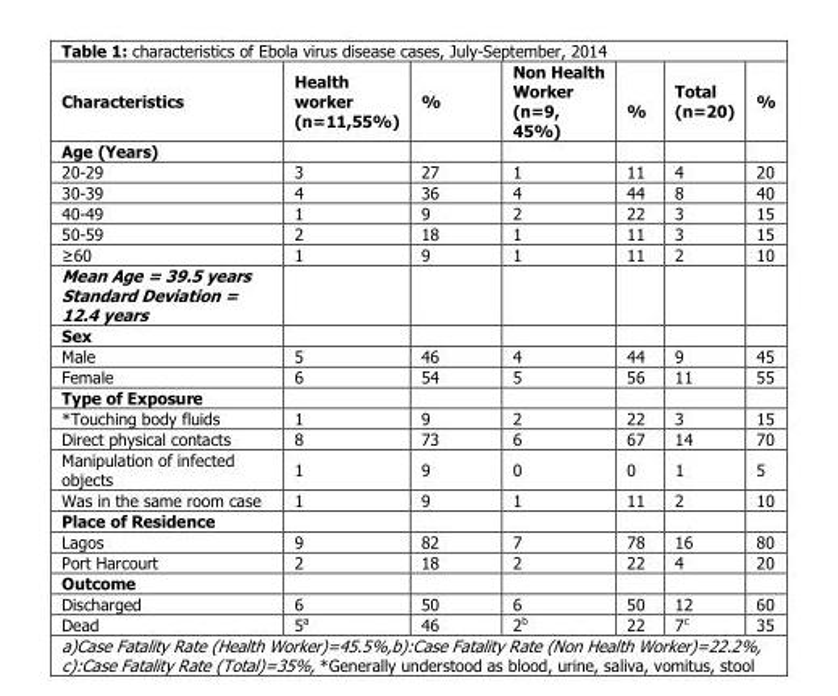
<table><thead><tr><td>Characteristics</td><td>Health worker (n=11,55%)</td><td>%</td><td>Non Health Worker (n=9, 45%)</td><td>%</td><td>Total (n=20)</td><td>%</td></tr></thead><tbody><tr><td colspan="7">Age (Years)</td></tr><tr><td>20-29</td><td>3</td><td>27</td><td>1</td><td>11</td><td>4</td><td>20</td></tr><tr><td>30-39</td><td>4</td><td>36</td><td>4</td><td>44</td><td>8</td><td>40</td></tr><tr><td>40-49</td><td>1</td><td>9</td><td>2</td><td>22</td><td>3</td><td>15</td></tr><tr><td>50-59</td><td>2</td><td>18</td><td>1</td><td>11</td><td>3</td><td>15</td></tr><tr><td>≥60</td><td>1</td><td>9</td><td>1</td><td>11</td><td>2</td><td>10</td></tr><tr><td colspan="7">Mean Age = 39.5 years Standard Deviation = 12.4 years</td></tr><tr><td colspan="7">Sex</td></tr><tr><td>Male</td><td>5</td><td>46</td><td>4</td><td>44</td><td>9</td><td>45</td></tr><tr><td>Female</td><td>6</td><td>54</td><td>5</td><td>56</td><td>11</td><td>55</td></tr><tr><td colspan="7">Type of Exposure</td></tr><tr><td>*Touching body fluids</td><td>1</td><td>9</td><td>2</td><td>22</td><td>3</td><td>15</td></tr><tr><td>Direct physical contacts</td><td>8</td><td>73</td><td>6</td><td>67</td><td>14</td><td>70</td></tr><tr><td>Manipulation of infected objects</td><td>1</td><td>9</td><td>0</td><td>0</td><td>1</td><td>5</td></tr><tr><td>Was in the same room case</td><td>1</td><td>9</td><td>1</td><td>11</td><td>2</td><td>10</td></tr><tr><td colspan="7">Place of Residence</td></tr><tr><td>Lagos</td><td>9</td><td>82</td><td>7</td><td>78</td><td>16</td><td>80</td></tr><tr><td>Port Harcourt</td><td>2</td><td>18</td><td>2</td><td>22</td><td>4</td><td>20</td></tr><tr><td colspan="7">Outcome</td></tr><tr><td>Discharged</td><td>6</td><td>50</td><td>6</td><td>50</td><td>12</td><td>60</td></tr><tr><td>Dead</td><td>5<sup>a</sup></td><td>46</td><td>2<sup>b</sup></td><td>22</td><td>7<sup>c</sup></td><td>35</td></tr></tbody></table>